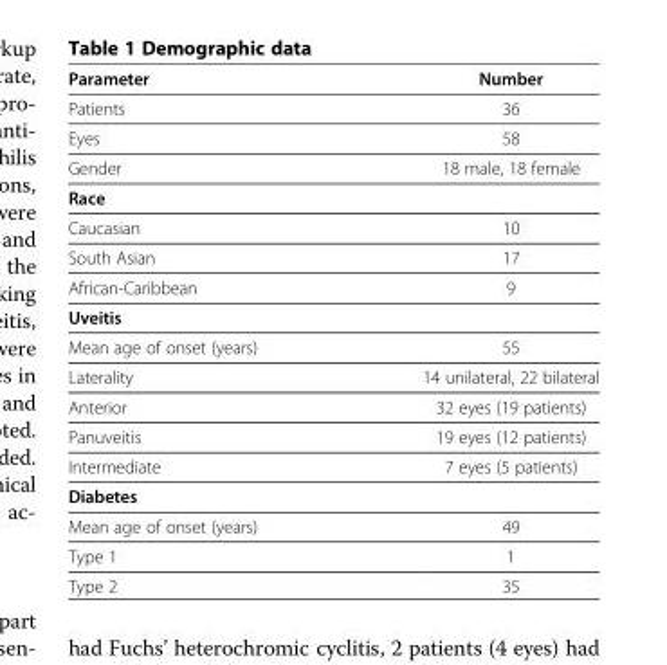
<table><thead><tr><td>Parameter</td><td>Number</td></tr></thead><tbody><tr><td>Patients</td><td>36</td></tr><tr><td>Eyes</td><td>58</td></tr><tr><td>Gender</td><td>18 male, 18 female</td></tr><tr><td colspan="2">Race</td></tr><tr><td>Caucasian</td><td>10</td></tr><tr><td>South Asian</td><td>17</td></tr><tr><td>African-Caribbean</td><td>9</td></tr><tr><td colspan="2">Uveitis</td></tr><tr><td>Mean age of onset (years)</td><td>55</td></tr><tr><td>Laterality</td><td>14 unilateral, 22 bilateral</td></tr><tr><td>Anterior</td><td>32 eyes (19 patients)</td></tr><tr><td>Panuveitis</td><td>19 eyes (12 patients)</td></tr><tr><td>Intermediate</td><td>7 eyes (5 patients)</td></tr><tr><td colspan="2">Diabetes</td></tr><tr><td>Mean age of onset (years)</td><td>49</td></tr><tr><td>Type 1</td><td>1</td></tr><tr><td>Type 2</td><td>35</td></tr></tbody></table>